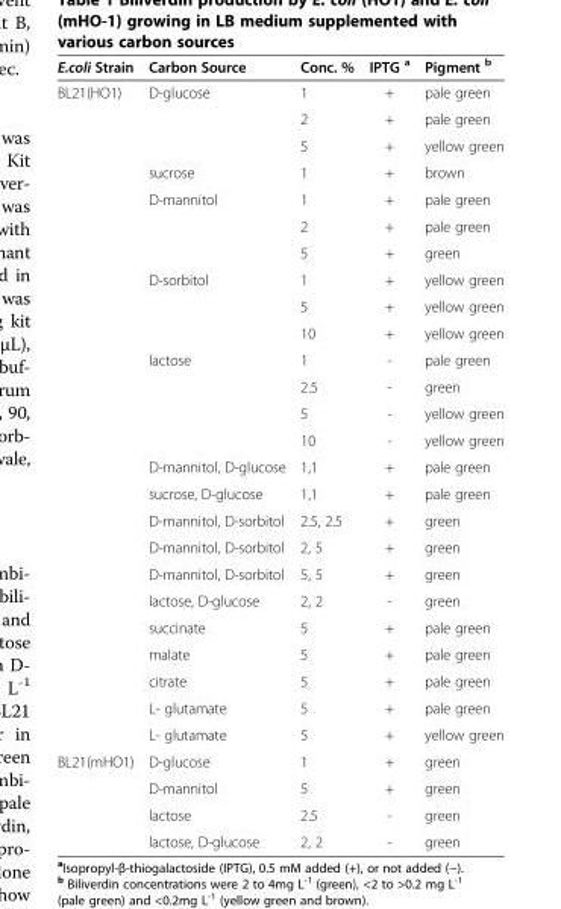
<table><thead><tr><td>E.coli Strain</td><td>Carbon Source</td><td>Conc. %</td><td>IPTG <sup>a</sup></td><td>Pigment <sup>b</sup></td></tr></thead><tbody><tr><td rowspan="25">BL21(HO1)</td><td>D-glucose</td><td>1</td><td>+</td><td>pale green</td></tr><tr><td></td><td>2</td><td>+</td><td>pale green</td></tr><tr><td></td><td>5</td><td>+</td><td>yellow green</td></tr><tr><td>sucrose</td><td>1</td><td>+</td><td>brown</td></tr><tr><td>D-mannitol</td><td>1</td><td>+</td><td>pale green</td></tr><tr><td></td><td>2</td><td>+</td><td>pale green</td></tr><tr><td></td><td>5</td><td>+</td><td>green</td></tr><tr><td>D-sorbitol</td><td>1</td><td>+</td><td>yellow green</td></tr><tr><td></td><td>5</td><td>+</td><td>yellow green</td></tr><tr><td></td><td>10</td><td>+</td><td>yellow green</td></tr><tr><td>lactose</td><td>1</td><td>-</td><td>pale green</td></tr><tr><td></td><td>2.5</td><td>-</td><td>green</td></tr><tr><td></td><td>5</td><td>-</td><td>yellow green</td></tr><tr><td></td><td>10</td><td>-</td><td>yellow green</td></tr><tr><td>D-mannitol, D-glucose</td><td>1,1</td><td>+</td><td>pale green</td></tr><tr><td>sucrose, D-glucose</td><td>1,1</td><td>+</td><td>pale green</td></tr><tr><td>D-mannitol, D-sorbitol</td><td>2.5, 2.5</td><td>+</td><td>green</td></tr><tr><td>D-mannitol, D-sorbitol</td><td>2, 5</td><td>+</td><td>green</td></tr><tr><td>D-mannitol, D-sorbitol</td><td>5, 5</td><td>+</td><td>green</td></tr><tr><td>lactose, D-glucose</td><td>2, 2</td><td>-</td><td>green</td></tr><tr><td>succinate</td><td>5</td><td>+</td><td>pale green</td></tr><tr><td>malate</td><td>5</td><td>+</td><td>pale green</td></tr><tr><td>citrate</td><td>5</td><td>+</td><td>pale green</td></tr><tr><td>L- glutamate</td><td>5</td><td>+</td><td>pale green</td></tr><tr><td>L- glutamate</td><td>5</td><td>+</td><td>yellow green</td></tr><tr><td rowspan="4">BL21(mHO1)</td><td>D-glucose</td><td>1</td><td>+</td><td>green</td></tr><tr><td>D-mannitol</td><td>5</td><td>+</td><td>green</td></tr><tr><td>lactose</td><td>2.5</td><td>-</td><td>green</td></tr><tr><td>lactose, D-glucose</td><td>2, 2</td><td>-</td><td>green</td></tr></tbody></table>